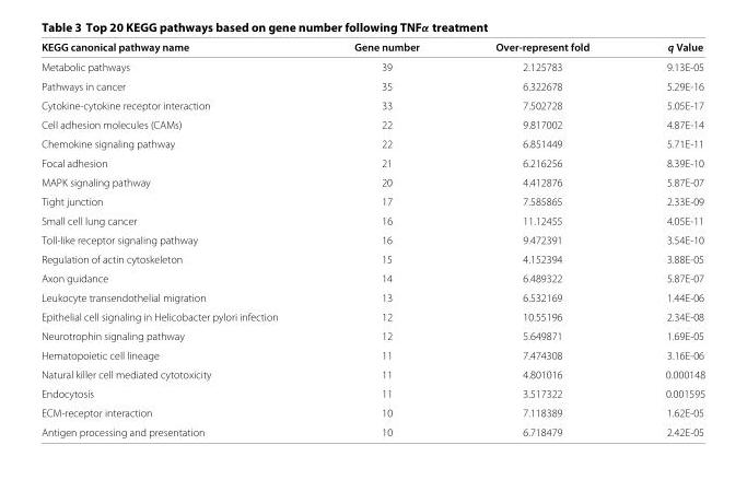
<table><thead><tr><td>KEGG canonical pathway name</td><td>Gene number</td><td>Over-represent fold</td><td>q Value</td></tr></thead><tbody><tr><td>Metabolic pathways</td><td>39</td><td>2.125783</td><td>9.13E-05</td></tr><tr><td>Pathways in cancer</td><td>35</td><td>6.322678</td><td>5.29E-16</td></tr><tr><td>Cytokine-cytokine receptor interaction</td><td>33</td><td>7.502728</td><td>5.05E-17</td></tr><tr><td>Cell adhesion molecules (CAMs)</td><td>22</td><td>9.817002</td><td>4.87E-14</td></tr><tr><td>Chemokine signaling pathway</td><td>22</td><td>6.851449</td><td>5.71E-11</td></tr><tr><td>Focal adhesion</td><td>21</td><td>6.216256</td><td>8.39E-10</td></tr><tr><td>MAPK signaling pathway</td><td>20</td><td>4.412876</td><td>5.87E-07</td></tr><tr><td>Tight junction</td><td>17</td><td>7.585865</td><td>2.33E-09</td></tr><tr><td>Small cell lung cancer</td><td>16</td><td>11.12455</td><td>4.05E-11</td></tr><tr><td>Toll-like receptor signaling pathway</td><td>16</td><td>9.472391</td><td>3.54E-10</td></tr><tr><td>Regulation of actin cytoskeleton</td><td>15</td><td>4.152394</td><td>3.88E-05</td></tr><tr><td>Axon guidance</td><td>14</td><td>6.489322</td><td>5.87E-07</td></tr><tr><td>Leukocyte transendothelial migration</td><td>13</td><td>6.532169</td><td>1.44E-06</td></tr><tr><td>Epithelial cell signaling in Helicobacter pylori infection</td><td>12</td><td>10.55196</td><td>2.34E-08</td></tr><tr><td>Neurotrophin signaling pathway</td><td>12</td><td>5.649871</td><td>1.69E-05</td></tr><tr><td>Hematopoietic cell lineage</td><td>11</td><td>7.474308</td><td>3.16E-06</td></tr><tr><td>Natural killer cell mediated cytotoxicity</td><td>11</td><td>4.801016</td><td>0.000148</td></tr><tr><td>Endocytosis</td><td>11</td><td>3.517322</td><td>0.001595</td></tr><tr><td>ECM-receptor interaction</td><td>10</td><td>7.118389</td><td>1.62E-05</td></tr><tr><td>Antigen processing and presentation</td><td>10</td><td>6.718479</td><td>2.42E-05</td></tr></tbody></table>